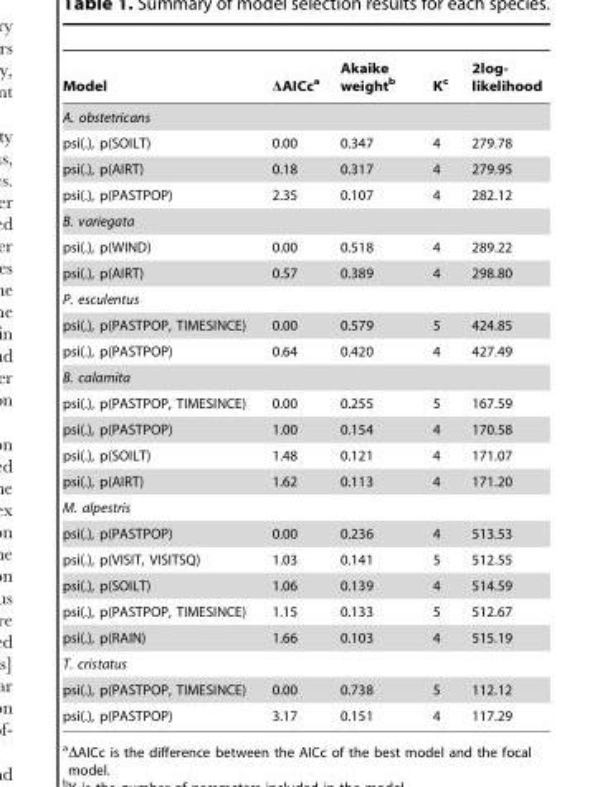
<table><thead><tr><td>Model</td><td>ΔAICc<sup>a</sup></td><td>Akaike weight<sup>b</sup></td><td>K<sup>c</sup></td><td>2log- likelihood</td></tr></thead><tbody><tr><td colspan="5">A. obstetricans</td></tr><tr><td>psi(.), p(SOILT)</td><td>0.00</td><td>0.347</td><td>4</td><td>279.78</td></tr><tr><td>psi(.), p(AIRT)</td><td>0.18</td><td>0.317</td><td>4</td><td>279.95</td></tr><tr><td>psi(.), p(PASTPOP)</td><td>2.35</td><td>0.107</td><td>4</td><td>282.12</td></tr><tr><td colspan="5">B. variegata</td></tr><tr><td>psi(.), p(WIND)</td><td>0.00</td><td>0.518</td><td>4</td><td>289.22</td></tr><tr><td>psi(.), p(AIRT)</td><td>0.57</td><td>0.389</td><td>4</td><td>298.80</td></tr><tr><td colspan="5">P. esculentus</td></tr><tr><td>psi(.), p(PASTPOP, TIMESINCE)</td><td>0.00</td><td>0.579</td><td>5</td><td>424.85</td></tr><tr><td>psi(.), p(PASTPOP)</td><td>0.64</td><td>0.420</td><td>4</td><td>427.49</td></tr><tr><td colspan="5">B. calamita</td></tr><tr><td>psi(.), p(PASTPOP, TIMESINCE)</td><td>0.00</td><td>0.255</td><td>5</td><td>167.59</td></tr><tr><td>psi(.), p(PASTPOP)</td><td>1.00</td><td>0.154</td><td>4</td><td>170.58</td></tr><tr><td>psi(.), p(SOILT)</td><td>1.48</td><td>0.121</td><td>4</td><td>171.07</td></tr><tr><td>psi(.), p(AIRT)</td><td>1.62</td><td>0.113</td><td>4</td><td>171.20</td></tr><tr><td colspan="5">M. alpestris</td></tr><tr><td>psi(.), p(PASTPOP)</td><td>0.00</td><td>0.236</td><td>4</td><td>513.53</td></tr><tr><td>psi(.), p(VISIT, VISITSQ)</td><td>1.03</td><td>0.141</td><td>5</td><td>512.55</td></tr><tr><td>psi(.), p(SOILT)</td><td>1.06</td><td>0.139</td><td>4</td><td>514.59</td></tr><tr><td>psi(.), p(PASTPOP, TIMESINCE)</td><td>1.15</td><td>0.133</td><td>5</td><td>512.67</td></tr><tr><td>psi(.), p(RAIN)</td><td>1.66</td><td>0.103</td><td>4</td><td>515.19</td></tr><tr><td colspan="5">T. cristatus</td></tr><tr><td>psi(.), p(PASTPOP, TIMESINCE)</td><td>0.00</td><td>0.738</td><td>5</td><td>112.12</td></tr><tr><td>psi(.), p(PASTPOP)</td><td>3.17</td><td>0.151</td><td>4</td><td>117.29</td></tr></tbody></table>